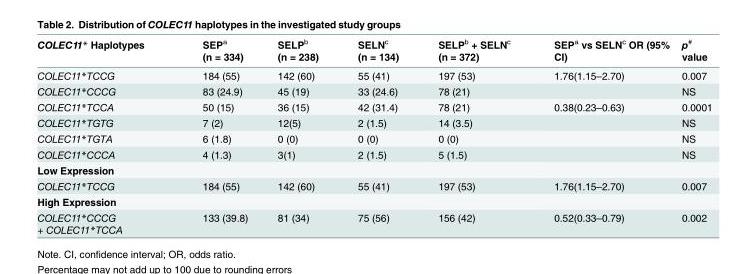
<table><thead><tr><td>COLEC11* Haplotypes</td><td>SEP<sup>a</sup> (n = 334)</td><td>SELP<sup>b</sup> (n = 238)</td><td>SELN<sup>c</sup> (n = 134)</td><td>SELP<sup>b</sup> + SELN<sup>c</sup> (n = 372)</td><td>SEP<sup>a</sup> vs SELN<sup>c</sup> OR (95% CI)</td><td>p<sup>#</sup> value</td></tr></thead><tbody><tr><td>COLEC11*TCCG</td><td>184 (55)</td><td>142 (60)</td><td>55 (41)</td><td>197 (53)</td><td>1.76(1.15–2.70)</td><td>0.007</td></tr><tr><td>COLEC11*CCCG</td><td>83 (24.9)</td><td>45 (19)</td><td>33 (24.6)</td><td>78 (21)</td><td></td><td>NS</td></tr><tr><td>COLEC11*TCCA</td><td>50 (15)</td><td>36 (15)</td><td>42 (31.4)</td><td>78 (21)</td><td>0.38(0.23–0.63)</td><td>0.0001</td></tr><tr><td>COLEC11*TGTG</td><td>7 (2)</td><td>12(5)</td><td>2 (1.5)</td><td>14 (3.5)</td><td></td><td>NS</td></tr><tr><td>COLEC11*TGTA</td><td>6 (1.8)</td><td>0 (0)</td><td>0 (0)</td><td>0 (0)</td><td></td><td>NS</td></tr><tr><td>COLEC11*CCCA</td><td>4 (1.3)</td><td>3(1)</td><td>2 (1.5)</td><td>5 (1.5)</td><td></td><td>NS</td></tr><tr><td colspan="7">Low Expression</td></tr><tr><td>COLEC11*TCCG</td><td>184 (55)</td><td>142 (60)</td><td>55 (41)</td><td>197 (53)</td><td>1.76(1.15–2.70)</td><td>0.007</td></tr><tr><td colspan="7">High Expression</td></tr><tr><td>COLEC11*CCCG + COLEC11*TCCA</td><td>133 (39.8)</td><td>81 (34)</td><td>75 (56)</td><td>156 (42)</td><td>0.52(0.33–0.79)</td><td>0.002</td></tr></tbody></table>